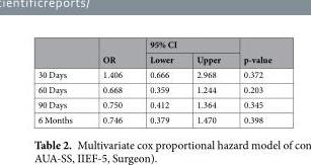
<table><thead><tr><td rowspan="2"></td><td rowspan="2">OR</td><td colspan="2">95% CI</td><td rowspan="2">p-value</td></tr><tr><td>Lower</td><td>Upper</td></tr></thead><tbody><tr><td>30 Days</td><td>1.406</td><td>0.666</td><td>2.968</td><td>0.372</td></tr><tr><td>60 Days</td><td>0.668</td><td>0.359</td><td>1.244</td><td>0.203</td></tr><tr><td>90 Days</td><td>0.750</td><td>0.412</td><td>1.364</td><td>0.345</td></tr><tr><td>6 Months</td><td>0.746</td><td>0.379</td><td>1.470</td><td>0.398</td></tr></tbody></table>